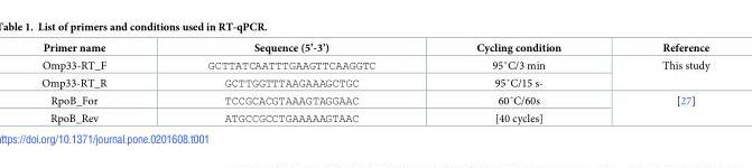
<table><thead><tr><td>Primer name</td><td>Sequence (5’-3’)</td><td>Cycling condition</td><td>Reference</td></tr></thead><tbody><tr><td>Omp33-RT_F</td><td>GCTTATCAATTTGAAGTTCAAGGTC</td><td>95˚C/3 min</td><td rowspan="2">This study</td></tr><tr><td>Omp33-RT_R</td><td>GCTTGGTTTAAGAAAGCTGC</td><td>95˚C/15 s-</td></tr><tr><td>RpoB_For</td><td>TCCGCACGTAAAGTAGGAAC</td><td>60˚C/60s</td><td rowspan="2">[27]</td></tr><tr><td>RpoB_Rev</td><td>ATGCCGCCTGAAAAAGTAAC</td><td>[40 cycles]</td></tr></tbody></table>